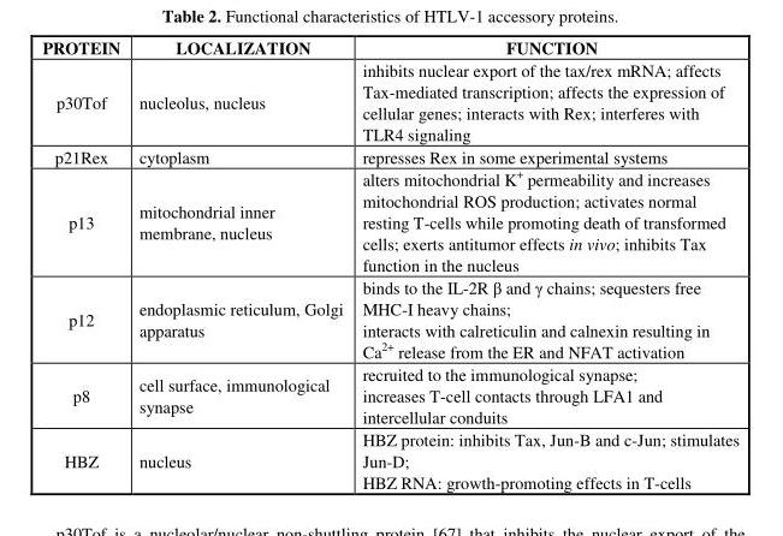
<table><thead><tr><td>PROTEIN</td><td>LOCALIZATION</td><td>FUNCTION</td></tr></thead><tbody><tr><td>p30Tof</td><td>nucleolus, nucleus</td><td>inhibits nuclear export of the tax/rex mRNA; affects Tax-mediated transcription; affects the expression of cellular genes; interacts with Rex; interferes with TLR4 signaling</td></tr><tr><td>p21Rex</td><td>cytoplasm</td><td>represses Rex in some experimental systems</td></tr><tr><td>p13</td><td>mitochondrial inner membrane, nucleus</td><td>alters mitochondrial K<sup>+</sup> permeability and increases mitochondrial ROS production; activates normal resting T-cells while promoting death of transformed cells; exerts antitumor effects in vivo; inhibits Tax function in the nucleus</td></tr><tr><td>p12</td><td>endoplasmic reticulum, Golgi apparatus</td><td>binds to the IL-2R β and γ chains; sequesters free MHC-I heavy chains; interacts with calreticulin and calnexin resulting in Ca<sup>2+</sup> release from the ER and NFAT activation</td></tr><tr><td>p8</td><td>cell surface, immunological synapse</td><td>recruited to the immunological synapse; increases T-cell contacts through LFA1 and intercellular conduits</td></tr><tr><td>HBZ</td><td>nucleus</td><td>HBZ protein: inhibits Tax, Jun-B and c-Jun; stimulates Jun-D; HBZ RNA: growth-promoting effects in T-cells</td></tr></tbody></table>